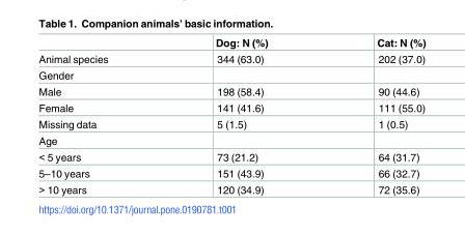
<table><thead><tr><td></td><td>Dog: N (%)</td><td>Cat: N (%)</td></tr></thead><tbody><tr><td>Animal species</td><td>344 (63.0)</td><td>202 (37.0)</td></tr><tr><td colspan="3">Gender</td></tr><tr><td>Male</td><td>198 (58.4)</td><td>90 (44.6)</td></tr><tr><td>Female</td><td>141 (41.6)</td><td>111 (55.0)</td></tr><tr><td>Missing data</td><td>5 (1.5)</td><td>1 (0.5)</td></tr><tr><td colspan="3">Age</td></tr><tr><td>&lt; 5 years</td><td>73 (21.2)</td><td>64 (31.7)</td></tr><tr><td>5–10 years</td><td>151 (43.9)</td><td>66 (32.7)</td></tr><tr><td>&gt; 10 years</td><td>120 (34.9)</td><td>72 (35.6)</td></tr></tbody></table>